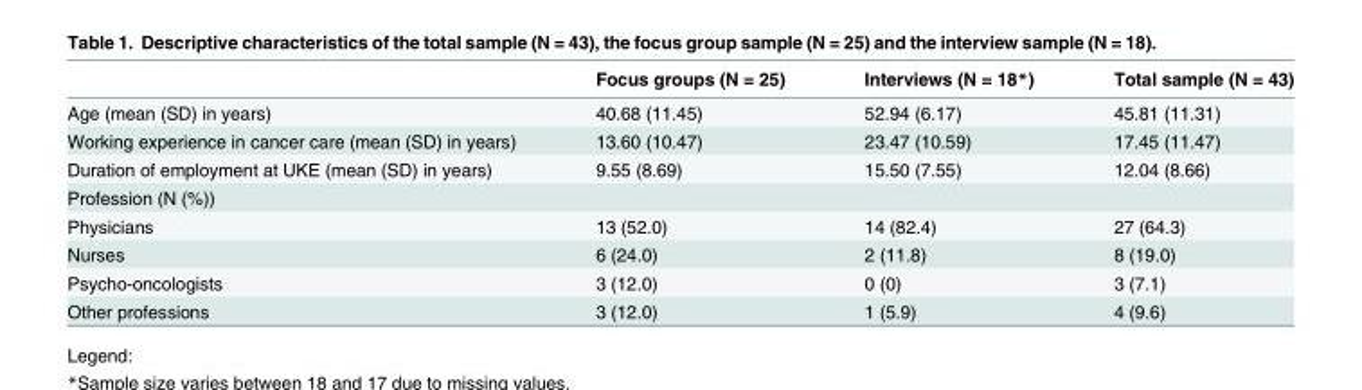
<table><thead><tr><td></td><td>Focus groups (N = 25)</td><td>Interviews (N = 18*)</td><td>Total sample (N = 43)</td></tr></thead><tbody><tr><td>Age (mean (SD) in years)</td><td>40.68 (11.45)</td><td>52.94 (6.17)</td><td>45.81 (11.31)</td></tr><tr><td>Working experience in cancer care (mean (SD) in years)</td><td>13.60 (10.47)</td><td>23.47 (10.59)</td><td>17.45 (11.47)</td></tr><tr><td>Duration of employment at UKE (mean (SD) in years)</td><td>9.55 (8.69)</td><td>15.50 (7.55)</td><td>12.04 (8.66)</td></tr><tr><td colspan="4">Profession (N (%))</td></tr><tr><td>Physicians</td><td>13 (52.0)</td><td>14 (82.4)</td><td>27 (64.3)</td></tr><tr><td>Nurses</td><td>6 (24.0)</td><td>2 (11.8)</td><td>8 (19.0)</td></tr><tr><td>Psycho-oncologists</td><td>3 (12.0)</td><td>0 (0)</td><td>3 (7.1)</td></tr><tr><td>Other professions</td><td>3 (12.0)</td><td>1 (5.9)</td><td>4 (9.6)</td></tr></tbody></table>